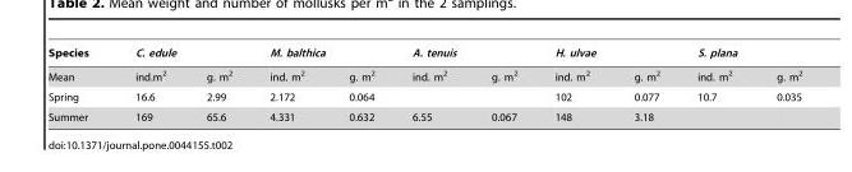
<table><thead><tr><td rowspan="2">Species Mean</td><td colspan="2">C. edule</td><td colspan="2">M. balthica</td><td colspan="2">A. tenuis</td><td colspan="2">H. ulvae</td><td colspan="2">S. plana</td></tr><tr><td>ind.m<sup>2</sup></td><td>g. m<sup>2</sup></td><td>ind. m<sup>2</sup></td><td>g. m<sup>2</sup></td><td>ind. m<sup>2</sup></td><td>g. m<sup>2</sup></td><td>ind. m<sup>2</sup></td><td>g. m<sup>2</sup></td><td>ind. m<sup>2</sup></td><td>g. m<sup>2</sup></td></tr></thead><tbody><tr><td>Spring</td><td>16.6</td><td>2.99</td><td>2.172</td><td>0.064</td><td></td><td></td><td>102</td><td>0.077</td><td>10.7</td><td>0.035</td></tr><tr><td>Summer</td><td>169</td><td>65.6</td><td>4.331</td><td>0.632</td><td>6.55</td><td>0.067</td><td>148</td><td>3.18</td><td></td><td></td></tr></tbody></table>